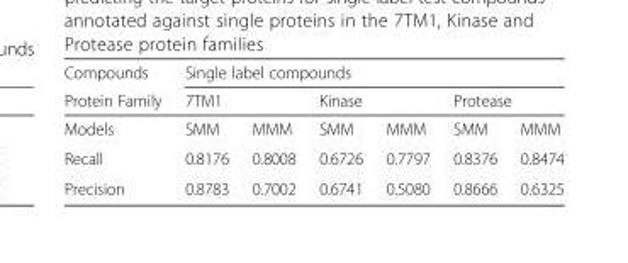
<table><thead><tr><td rowspan="3">Compounds Protein Family Models</td><td colspan="6">Single label compounds</td></tr><tr><td colspan="2">7TM1</td><td colspan="2">Kinase</td><td colspan="2">Protease</td></tr><tr><td>SMM</td><td>MMM</td><td>SMM</td><td>MMM</td><td>SMM</td><td>MMM</td></tr></thead><tbody><tr><td>Recall</td><td>0.8176</td><td>0.8008</td><td>0.6726</td><td>0.7797</td><td>0.8376</td><td>0.8474</td></tr><tr><td>Precision</td><td>0.8783</td><td>0.7002</td><td>0.6741</td><td>0.5080</td><td>0.8666</td><td>0.6325</td></tr></tbody></table>